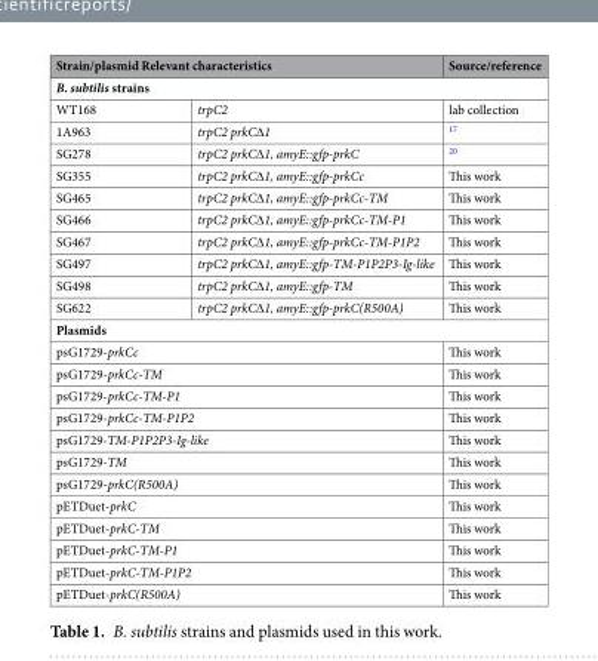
<table><thead><tr><td colspan="2">Strain/plasmid Relevant characteristics</td><td>Source/reference</td></tr><tr><td colspan="3">B. subtilis strains</td></tr><tr><td>WT168</td><td>trpC2</td><td>lab collection</td></tr></thead><tbody><tr><td>1A963</td><td>trpC2 prkC∆1</td><td><sup>17</sup></td></tr><tr><td>SG278</td><td>trpC2 prkC∆1, amyE::gfp-prkC</td><td><sup>20</sup></td></tr><tr><td>SG355</td><td>trpC2 prkC∆1, amyE::gfp-prkCc</td><td>This work</td></tr><tr><td>SG465</td><td>trpC2 prkC∆1, amyE::gfp-prkCc-TM</td><td>This work</td></tr><tr><td>SG466</td><td>trpC2 prkC∆1, amyE::gfp-prkCc-TM-P1</td><td>This work</td></tr><tr><td>SG467</td><td>trpC2 prkC∆1, amyE::gfp-prkCc-TM-P1P2</td><td>This work</td></tr><tr><td>SG497</td><td>trpC2 prkC∆1, amyE::gfp-TM-P1P2P3-Ig-like</td><td>This work</td></tr><tr><td>SG498</td><td>trpC2 prkC∆1, amyE::gfp-TM</td><td>This work</td></tr><tr><td>SG622</td><td>trpC2 prkC∆1, amyE::gfp-prkC(R500A)</td><td>This work</td></tr><tr><td colspan="3">Plasmids</td></tr><tr><td colspan="2">psG1729-prkCc</td><td>This work</td></tr><tr><td colspan="2">psG1729-prkCc-TM</td><td>This work</td></tr><tr><td colspan="2">psG1729-prkCc-TM-P1</td><td>This work</td></tr><tr><td colspan="2">psG1729-prkCc-TM-P1P2</td><td>This work</td></tr><tr><td colspan="2">psG1729-TM-P1P2P3-Ig-like</td><td>This work</td></tr><tr><td colspan="2">psG1729-TM</td><td>This work</td></tr><tr><td colspan="2">psG1729-prkC(R500A)</td><td>This work</td></tr><tr><td colspan="2">pETDuet-prkC</td><td>This work</td></tr><tr><td colspan="2">pETDuet-prkC-TM</td><td>This work</td></tr><tr><td colspan="2">pETDuet-prkC-TM-P1</td><td>This work</td></tr><tr><td colspan="2">pETDuet-prkC-TM-P1P2</td><td>This work</td></tr><tr><td colspan="2">pETDuet-prkC(R500A)</td><td>This work</td></tr></tbody></table>